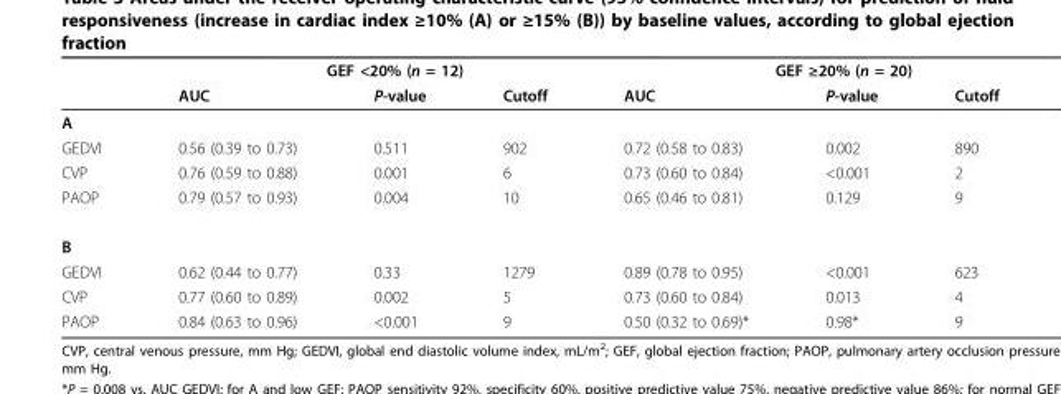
<table><thead><tr><td rowspan="2"></td><td colspan="3">GEF &lt;20% (n = 12)</td><td colspan="3">GEF ≥20% (n = 20)</td></tr><tr><td>AUC</td><td>P-value</td><td>Cutoff</td><td>AUC</td><td>P-value</td><td>Cutoff</td></tr></thead><tbody><tr><td colspan="7">A</td></tr><tr><td>GEDVI</td><td>0.56 (0.39 to 0.73)</td><td>0.511</td><td>902</td><td>0.72 (0.58 to 0.83)</td><td>0.002</td><td>890</td></tr><tr><td>CVP</td><td>0.76 (0.59 to 0.88)</td><td>0.001</td><td>6</td><td>0.73 (0.60 to 0.84)</td><td>&lt;0.001</td><td>2</td></tr><tr><td>PAOP</td><td>0.79 (0.57 to 0.93)</td><td>0.004</td><td>10</td><td>0.65 (0.46 to 0.81)</td><td>0.129</td><td>9</td></tr><tr><td colspan="7">B</td></tr><tr><td>GEDVI</td><td>0.62 (0.44 to 0.77)</td><td>0.33</td><td>1279</td><td>0.89 (0.78 to 0.95)</td><td>&lt;0.001</td><td>623</td></tr><tr><td>CVP</td><td>0.77 (0.60 to 0.89)</td><td>0.002</td><td>5</td><td>0.73 (0.60 to 0.84)</td><td>0.013</td><td>4</td></tr><tr><td>PAOP</td><td>0.84 (0.63 to 0.96)</td><td>&lt;0.001</td><td>9</td><td>0.50 (0.32 to 0.69)*</td><td>0.98*</td><td>9</td></tr></tbody></table>